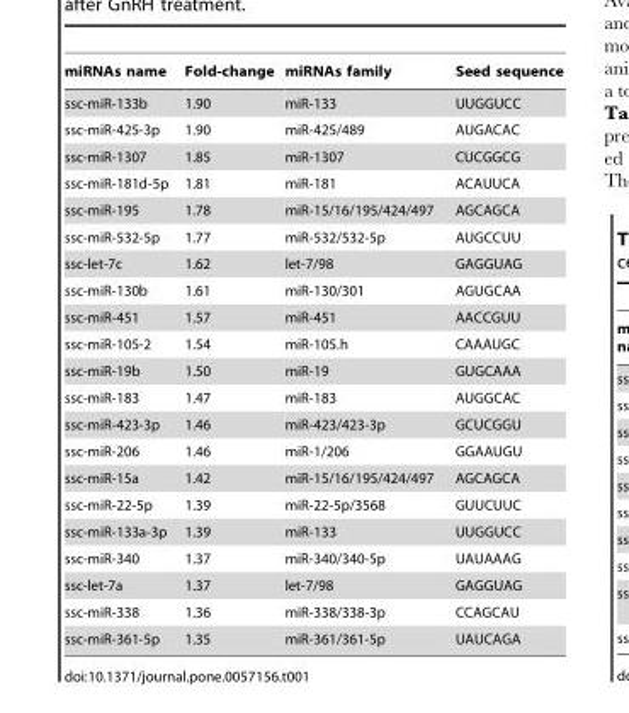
<table><thead><tr><td>miRNAs name</td><td>Fold-change</td><td>miRNAs family</td><td>Seed sequence</td></tr></thead><tbody><tr><td>ssc-miR-133b</td><td>1.90</td><td>miR-133</td><td>UUGGUCC</td></tr><tr><td>ssc-miR-425-3p</td><td>1.90</td><td>miR-425/489</td><td>AUGACAC</td></tr><tr><td>ssc-miR-1307</td><td>1.85</td><td>miR-1307</td><td>CUCGGCG</td></tr><tr><td>ssc-miR-181d-5p</td><td>1.81</td><td>miR-181</td><td>ACAUUCA</td></tr><tr><td>ssc-miR-195</td><td>1.78</td><td>miR-15/16/195/424/497</td><td>AGCAGCA</td></tr><tr><td>ssc-miR-532-5p</td><td>1.77</td><td>miR-532/532-5p</td><td>AUGCCUU</td></tr><tr><td>ssc-let-7c</td><td>1.62</td><td>let-7/98</td><td>GAGGUAG</td></tr><tr><td>ssc-miR-130b</td><td>1.61</td><td>miR-130/301</td><td>AGUGCAA</td></tr><tr><td>ssc-miR-451</td><td>1.57</td><td>miR-451</td><td>AACCGUU</td></tr><tr><td>ssc-miR-105-2</td><td>1.54</td><td>miR-105.h</td><td>CAAAUGC</td></tr><tr><td>ssc-miR-19b</td><td>1.50</td><td>miR-19</td><td>GUGCAAA</td></tr><tr><td>ssc-miR-183</td><td>1.47</td><td>miR-183</td><td>AUGGCAC</td></tr><tr><td>ssc-miR-423-3p</td><td>1.46</td><td>miR-423/423-3p</td><td>GCUCGGU</td></tr><tr><td>ssc-miR-206</td><td>1.46</td><td>miR-1/206</td><td>GGAAUGU</td></tr><tr><td>ssc-miR-15a</td><td>1.42</td><td>miR-15/16/195/424/497</td><td>AGCAGCA</td></tr><tr><td>ssc-miR-22-5p</td><td>1.39</td><td>miR-22-5p/3568</td><td>GUUCUUC</td></tr><tr><td>ssc-miR-133a-3p</td><td>1.39</td><td>miR-133</td><td>UUGGUCC</td></tr><tr><td>ssc-miR-340</td><td>1.37</td><td>miR-340/340-5p</td><td>UAUAAAG</td></tr><tr><td>ssc-let-7a</td><td>1.37</td><td>let-7/98</td><td>GAGGUAG</td></tr><tr><td>ssc-miR-338</td><td>1.36</td><td>miR-338/338-3p</td><td>CCAGCAU</td></tr><tr><td>ssc-miR-361-5p</td><td>1.35</td><td>miR-361/361-5p</td><td>UAUCAGA</td></tr></tbody></table>